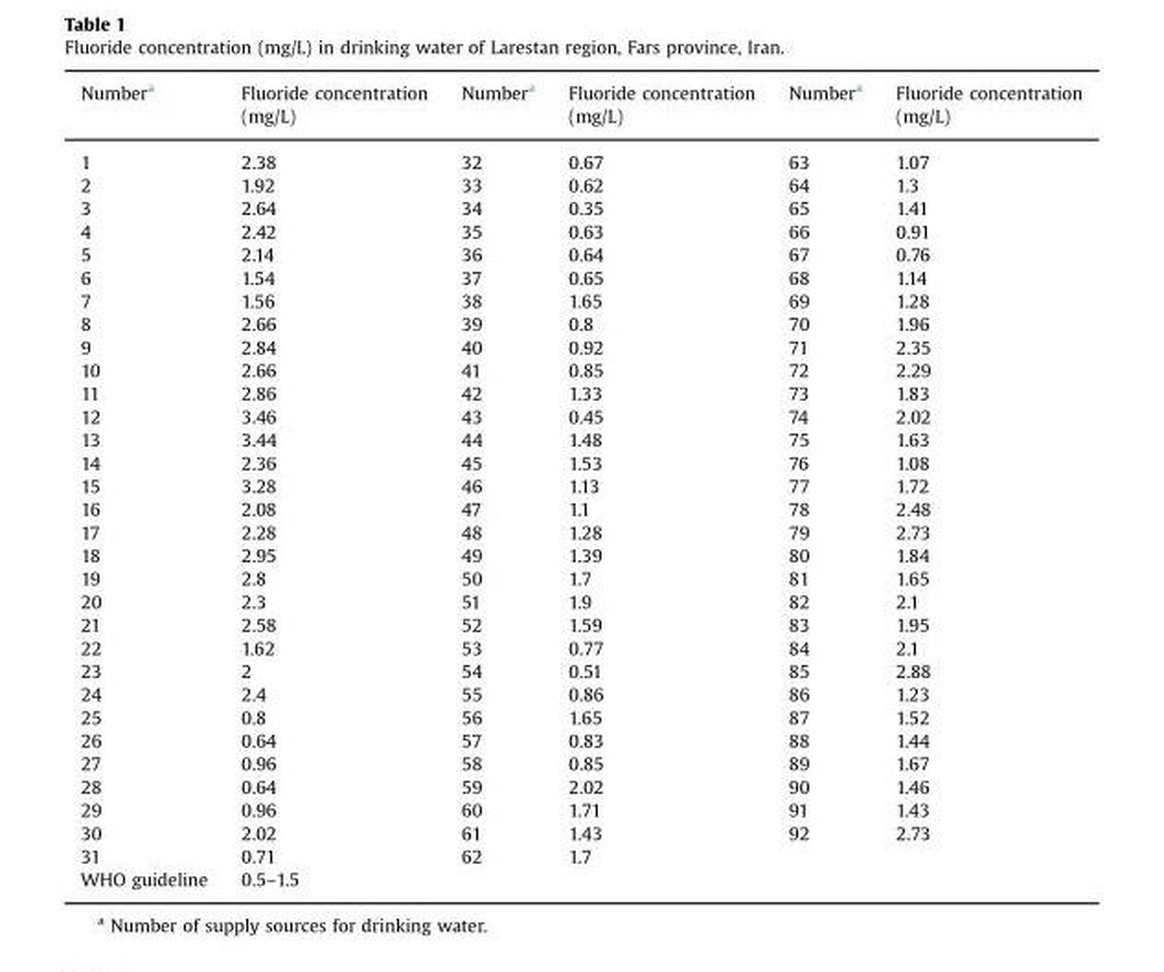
<table><thead><tr><td rowspan="2">Number<sup>a</sup></td><td rowspan="2">Fluoride concentration (mg/L)</td><td rowspan="2">Number<sup>a</sup></td><td rowspan="2">Fluoride concentration (mg/L)</td><td rowspan="2">Number<sup>a</sup></td><td rowspan="2">Fluoride concentration (mg/L)</td></tr><tr></tr></thead><tbody><tr><td>1</td><td>2.38</td><td>32</td><td>0.67</td><td>63</td><td>1.07</td></tr><tr><td>2</td><td>1.92</td><td>33</td><td>0.62</td><td>64</td><td>1.3</td></tr><tr><td>3</td><td>2.64</td><td>34</td><td>0.35</td><td>65</td><td>1.41</td></tr><tr><td>4</td><td>2.42</td><td>35</td><td>0.63</td><td>66</td><td>0.91</td></tr><tr><td>5</td><td>2.14</td><td>36</td><td>0.64</td><td>67</td><td>0.76</td></tr><tr><td>6</td><td>1.54</td><td>37</td><td>0.65</td><td>68</td><td>1.14</td></tr><tr><td>7</td><td>1.56</td><td>38</td><td>1.65</td><td>69</td><td>1.28</td></tr><tr><td>8</td><td>2.66</td><td>39</td><td>0.8</td><td>70</td><td>1.96</td></tr><tr><td>9</td><td>2.84</td><td>40</td><td>0.92</td><td>71</td><td>2.35</td></tr><tr><td>10</td><td>2.66</td><td>41</td><td>0.85</td><td>72</td><td>2.29</td></tr><tr><td>11</td><td>2.86</td><td>42</td><td>1.33</td><td>73</td><td>1.83</td></tr><tr><td>12</td><td>3.46</td><td>43</td><td>0.45</td><td>74</td><td>2.02</td></tr><tr><td>13</td><td>3.44</td><td>44</td><td>1.48</td><td>75</td><td>1.63</td></tr><tr><td>14</td><td>2.36</td><td>45</td><td>1.53</td><td>76</td><td>1.08</td></tr><tr><td>15</td><td>3.28</td><td>46</td><td>1.13</td><td>77</td><td>1.72</td></tr><tr><td>16</td><td>2.08</td><td>47</td><td>1.1</td><td>78</td><td>2.48</td></tr><tr><td>17</td><td>2.28</td><td>48</td><td>1.28</td><td>79</td><td>2.73</td></tr><tr><td>18</td><td>2.95</td><td>49</td><td>1.39</td><td>80</td><td>1.84</td></tr><tr><td>19</td><td>2.8</td><td>50</td><td>1.7</td><td>81</td><td>1.65</td></tr><tr><td>20</td><td>2.3</td><td>51</td><td>1.9</td><td>82</td><td>2.1</td></tr><tr><td>21</td><td>2.58</td><td>52</td><td>1.59</td><td>83</td><td>1.95</td></tr><tr><td>22</td><td>1.62</td><td>53</td><td>0.77</td><td>84</td><td>2.1</td></tr><tr><td>23</td><td>2</td><td>54</td><td>0.51</td><td>85</td><td>2.88</td></tr><tr><td>24</td><td>2.4</td><td>55</td><td>0.86</td><td>86</td><td>1.23</td></tr><tr><td>25</td><td>0.8</td><td>56</td><td>1.65</td><td>87</td><td>1.52</td></tr><tr><td>26</td><td>0.64</td><td>57</td><td>0.83</td><td>88</td><td>1.44</td></tr><tr><td>27</td><td>0.96</td><td>58</td><td>0.85</td><td>89</td><td>1.67</td></tr><tr><td>28</td><td>0.64</td><td>59</td><td>2.02</td><td>90</td><td>1.46</td></tr><tr><td>29</td><td>0.96</td><td>60</td><td>1.71</td><td>91</td><td>1.43</td></tr><tr><td>30</td><td>2.02</td><td>61</td><td>1.43</td><td>92</td><td>2.73</td></tr><tr><td>31</td><td>0.71</td><td>62</td><td>1.7</td><td></td><td></td></tr><tr><td>WHO guideline</td><td>0.5–1.5</td><td></td><td></td><td></td><td></td></tr></tbody></table>